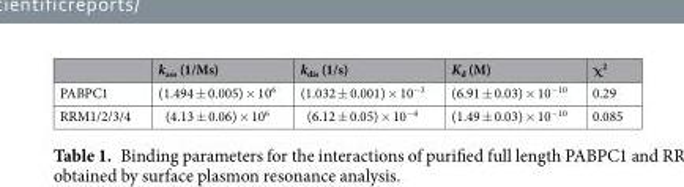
<table><thead><tr><td></td><td>k<sub>ass</sub> (1/Ms)</td><td>k<sub>dis</sub> (1/s)</td><td>K<sub>d</sub> (M)</td><td>χ<sup>2</sup></td></tr></thead><tbody><tr><td>PABPC1</td><td>(1.494 ± 0.005) × 10<sup>6</sup></td><td>(1.032 ± 0.001) × 10<sup>−3</sup></td><td>(6.91 ± 0.03) × 10<sup>−10</sup></td><td>0.29</td></tr><tr><td>RRM1/2/3/4</td><td>(4.13 ± 0.06) × 10<sup>6</sup></td><td>(6.12 ± 0.05) × 10<sup>−4</sup></td><td>(1.49 ± 0.03) × 10<sup>−10</sup></td><td>0.085</td></tr></tbody></table>